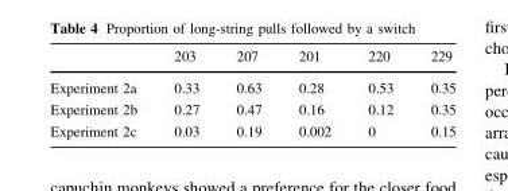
<table><thead><tr><td></td><td>203</td><td>207</td><td>201</td><td>220</td><td>229</td></tr></thead><tbody><tr><td>Experiment 2a</td><td>0.33</td><td>0.63</td><td>0.28</td><td>0.53</td><td>0.35</td></tr><tr><td>Experiment 2b</td><td>0.27</td><td>0.47</td><td>0.16</td><td>0.12</td><td>0.35</td></tr><tr><td>Experiment 2c</td><td>0.03</td><td>0.19</td><td>0.002</td><td>0</td><td>0.15</td></tr></tbody></table>